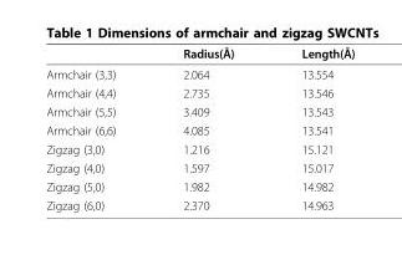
<table><thead><tr><td></td><td>Radius(Å)</td><td>Length(Å)</td></tr></thead><tbody><tr><td>Armchair (3,3)</td><td>2.064</td><td>13.554</td></tr><tr><td>Armchair (4,4)</td><td>2.735</td><td>13.546</td></tr><tr><td>Armchair (5,5)</td><td>3.409</td><td>13.543</td></tr><tr><td>Armchair (6,6)</td><td>4.085</td><td>13.541</td></tr><tr><td>Zigzag (3,0)</td><td>1.216</td><td>15.121</td></tr><tr><td>Zigzag (4,0)</td><td>1.597</td><td>15.017</td></tr><tr><td>Zigzag (5,0)</td><td>1.982</td><td>14.982</td></tr><tr><td>Zigzag (6,0)</td><td>2.370</td><td>14.963</td></tr></tbody></table>